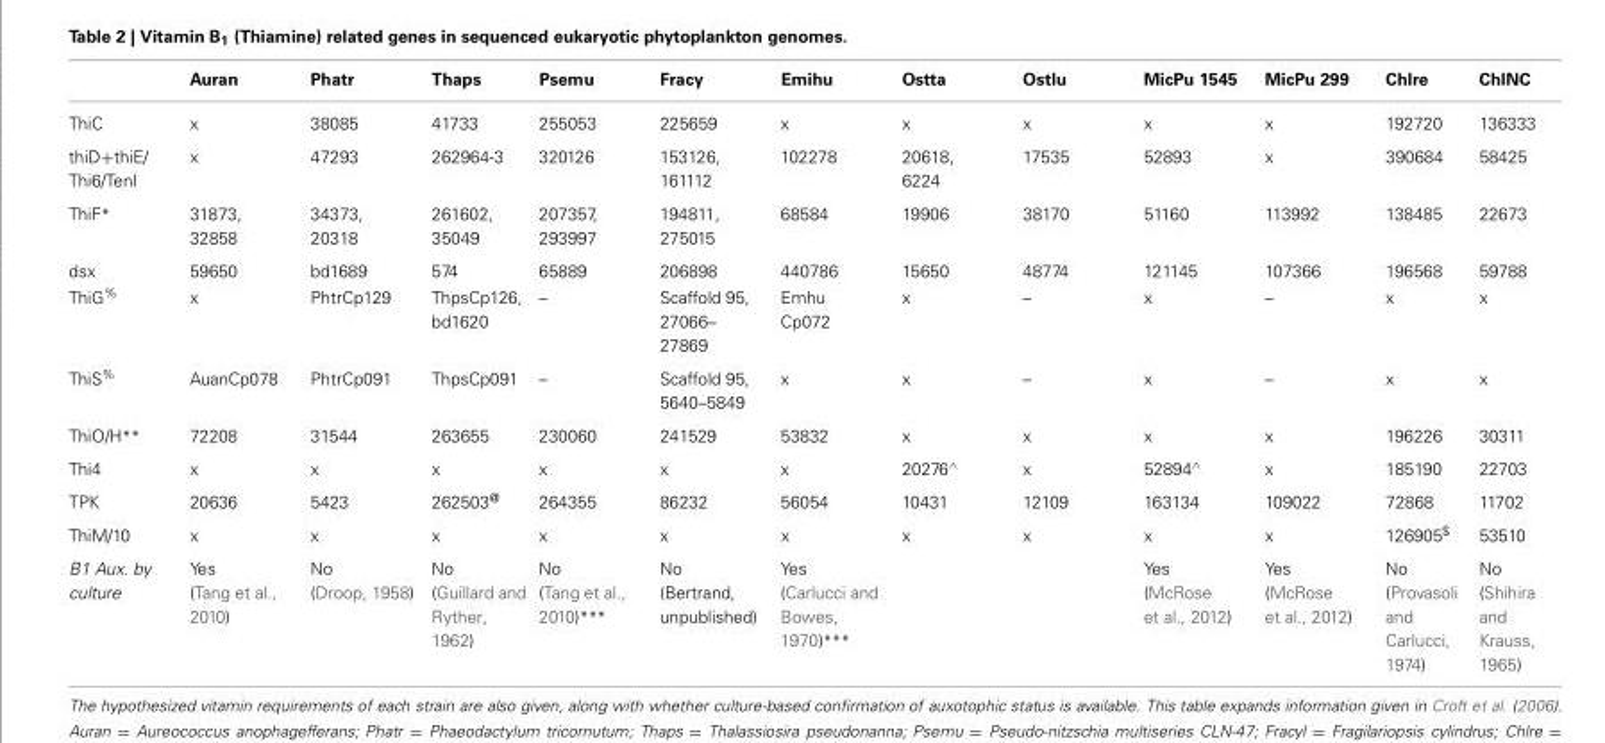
<table><thead><tr><td></td><td>Auran</td><td>Phatr</td><td>Thaps</td><td>Psemu</td><td>Fracy</td><td>Emihu</td><td>Ostta</td><td>Ostlu</td><td>MicPu 1545</td><td>MicPu 299</td><td>Chlre</td><td>ChlNC</td></tr></thead><tbody><tr><td>ThiC</td><td>x</td><td>38085</td><td>41733</td><td>255053</td><td>225659</td><td>x</td><td>x</td><td>x</td><td>x</td><td>x</td><td>192720</td><td>136333</td></tr><tr><td>thiD+thiE/ Thi6/TenI</td><td>x</td><td>47293</td><td>262964-3</td><td>320126</td><td>153126, 161112</td><td>102278</td><td>20618, 6224</td><td>17535</td><td>52893</td><td>x</td><td>390684</td><td>58425</td></tr><tr><td>ThiF*</td><td>31873, 32858</td><td>34373, 20318</td><td>261602, 35049</td><td>207357, 293997</td><td>194811, 275015</td><td>68584</td><td>19906</td><td>38170</td><td>51160</td><td>113992</td><td>138485</td><td>22673</td></tr><tr><td>dsx</td><td>59650</td><td>bd1689</td><td>574</td><td>65889</td><td>206898</td><td>440786</td><td>15650</td><td>48774</td><td>121145</td><td>107366</td><td>196568</td><td>59788</td></tr><tr><td>ThiG<sup>%</sup></td><td>x</td><td>PhtrCp129</td><td>ThpsCp126, bd1620</td><td>–</td><td>Scaffold 95, 27066– 27869</td><td>Emhu Cp072</td><td>x</td><td>–</td><td>x</td><td>–</td><td>x</td><td>x</td></tr><tr><td>ThiS<sup>%</sup></td><td>AuanCp078</td><td>PhtrCp091</td><td>ThpsCp091</td><td>–</td><td>Scaffold 95, 5640–5849</td><td>x</td><td>x</td><td>–</td><td>x</td><td>–</td><td>x</td><td>x</td></tr><tr><td>ThiO/H**</td><td>72208</td><td>31544</td><td>263655</td><td>230060</td><td>241529</td><td>53832</td><td>x</td><td>x</td><td>x</td><td>x</td><td>196226</td><td>30311</td></tr><tr><td>Thi4</td><td>x</td><td>x</td><td>x</td><td>x</td><td>x</td><td>x</td><td>20276<sup>∧</sup></td><td>x</td><td>52894<sup>∧</sup></td><td>x</td><td>185190</td><td>22703</td></tr><tr><td>TPK</td><td>20636</td><td>5423</td><td>262503<sup>@</sup></td><td>264355</td><td>86232</td><td>56054</td><td>10431</td><td>12109</td><td>163134</td><td>109022</td><td>72868</td><td>11702</td></tr><tr><td>ThiM/10</td><td>x</td><td>x</td><td>x</td><td>x</td><td>x</td><td>x</td><td>x</td><td>x</td><td>x</td><td>x</td><td>126905<sup>$</sup></td><td>53510</td></tr><tr><td>B1 Aux. by culture</td><td>Yes (Tang et al., 2010)</td><td>No (Droop, 1958)</td><td>No (Guillard and Ryther, 1962)</td><td>No (Tang et al., 2010)***</td><td>No (Bertrand, unpublished)</td><td>Yes (Carlucci and Bowes, 1970)***</td><td></td><td></td><td>Yes (McRose et al., 2012)</td><td>Yes (McRose et al., 2012)</td><td>No (Provasoli and Carlucci, 1974)</td><td>No (Shihira and Krauss, 1965)</td></tr></tbody></table>